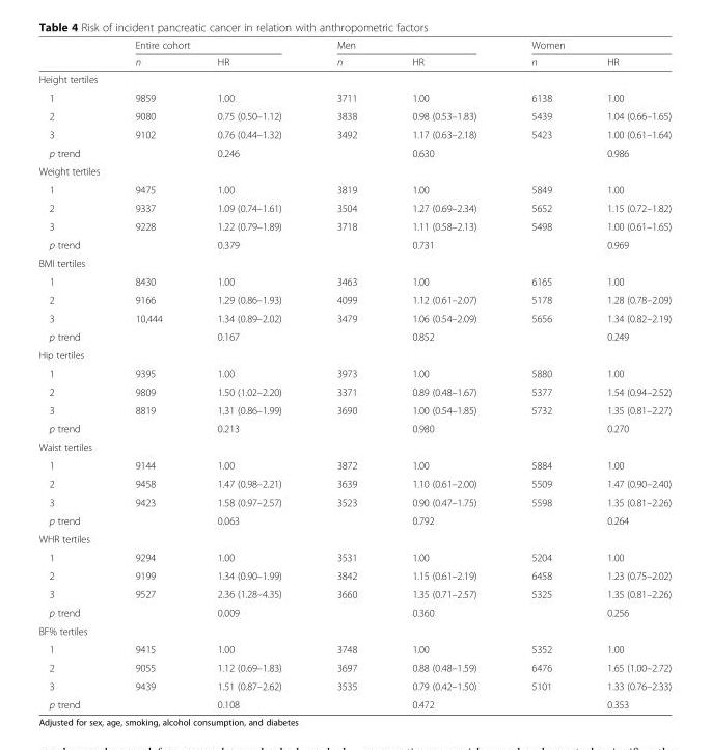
<table><thead><tr><td rowspan="2"></td><td colspan="2">Entire cohort</td><td colspan="2">Men</td><td colspan="2">Women</td></tr><tr><td>n</td><td>HR</td><td>n</td><td>HR</td><td>n</td><td>HR</td></tr></thead><tbody><tr><td colspan="7">Height tertiles</td></tr><tr><td>1</td><td>9859</td><td>1.00</td><td>3711</td><td>1.00</td><td>6138</td><td>1.00</td></tr><tr><td>2</td><td>9080</td><td>0.75 (0.50–1.12)</td><td>3838</td><td>0.98 (0.53–1.83)</td><td>5439</td><td>1.04 (0.66–1.65)</td></tr><tr><td>3</td><td>9102</td><td>0.76 (0.44–1.32)</td><td>3492</td><td>1.17 (0.63–2.18)</td><td>5423</td><td>1.00 (0.61–1.64)</td></tr><tr><td>p trend</td><td></td><td>0.246</td><td></td><td>0.630</td><td></td><td>0.986</td></tr><tr><td colspan="7">Weight tertiles</td></tr><tr><td>1</td><td>9475</td><td>1.00</td><td>3819</td><td>1.00</td><td>5849</td><td>1.00</td></tr><tr><td>2</td><td>9337</td><td>1.09 (0.74–1.61)</td><td>3504</td><td>1.27 (0.69–2.34)</td><td>5652</td><td>1.15 (0.72–1.82)</td></tr><tr><td>3</td><td>9228</td><td>1.22 (0.79–1.89)</td><td>3718</td><td>1.11 (0.58–2.13)</td><td>5498</td><td>1.00 (0.61–1.65)</td></tr><tr><td>p trend</td><td></td><td>0.379</td><td></td><td>0.731</td><td></td><td>0.969</td></tr><tr><td colspan="7">BMI tertiles</td></tr><tr><td>1</td><td>8430</td><td>1.00</td><td>3463</td><td>1.00</td><td>6165</td><td>1.00</td></tr><tr><td>2</td><td>9166</td><td>1.29 (0.86–1.93)</td><td>4099</td><td>1.12 (0.61–2.07)</td><td>5178</td><td>1.28 (0.78–2.09)</td></tr><tr><td>3</td><td>10,444</td><td>1.34 (0.89–2.02)</td><td>3479</td><td>1.06 (0.54–2.09)</td><td>5656</td><td>1.34 (0.82–2.19)</td></tr><tr><td>p trend</td><td></td><td>0.167</td><td></td><td>0.852</td><td></td><td>0.249</td></tr><tr><td colspan="7">Hip tertiles</td></tr><tr><td>1</td><td>9395</td><td>1.00</td><td>3973</td><td>1.00</td><td>5880</td><td>1.00</td></tr><tr><td>2</td><td>9809</td><td>1.50 (1.02–2.20)</td><td>3371</td><td>0.89 (0.48–1.67)</td><td>5377</td><td>1.54 (0.94–2.52)</td></tr><tr><td>3</td><td>8819</td><td>1.31 (0.86–1.99)</td><td>3690</td><td>1.00 (0.54–1.85)</td><td>5732</td><td>1.35 (0.81–2.27)</td></tr><tr><td>p trend</td><td></td><td>0.213</td><td></td><td>0.980</td><td></td><td>0.270</td></tr><tr><td colspan="7">Waist tertiles</td></tr><tr><td>1</td><td>9144</td><td>1.00</td><td>3872</td><td>1.00</td><td>5884</td><td>1.00</td></tr><tr><td>2</td><td>9458</td><td>1.47 (0.98–2.21)</td><td>3639</td><td>1.10 (0.61–2.00)</td><td>5509</td><td>1.47 (0.90–2.40)</td></tr><tr><td>3</td><td>9423</td><td>1.58 (0.97–2.57)</td><td>3523</td><td>0.90 (0.47–1.75)</td><td>5598</td><td>1.35 (0.81–2.26)</td></tr><tr><td>p trend</td><td></td><td>0.063</td><td></td><td>0.792</td><td></td><td>0.264</td></tr><tr><td colspan="7">WHR tertiles</td></tr><tr><td>1</td><td>9294</td><td>1.00</td><td>3531</td><td>1.00</td><td>5204</td><td>1.00</td></tr><tr><td>2</td><td>9199</td><td>1.34 (0.90–1.99)</td><td>3842</td><td>1.15 (0.61–2.19)</td><td>6458</td><td>1.23 (0.75–2.02)</td></tr><tr><td>3</td><td>9527</td><td>2.36 (1.28–4.35)</td><td>3660</td><td>1.35 (0.71–2.57)</td><td>5325</td><td>1.35 (0.81–2.26)</td></tr><tr><td>p trend</td><td></td><td>0.009</td><td></td><td>0.360</td><td></td><td>0.256</td></tr><tr><td colspan="7">BF% tertiles</td></tr><tr><td>1</td><td>9415</td><td>1.00</td><td>3748</td><td>1.00</td><td>5352</td><td>1.00</td></tr><tr><td>2</td><td>9055</td><td>1.12 (0.69–1.83)</td><td>3697</td><td>0.88 (0.48–1.59)</td><td>6476</td><td>1.65 (1.00–2.72)</td></tr><tr><td>3</td><td>9439</td><td>1.51 (0.87–2.62)</td><td>3535</td><td>0.79 (0.42–1.50)</td><td>5101</td><td>1.33 (0.76–2.33)</td></tr><tr><td>p trend</td><td></td><td>0.108</td><td></td><td>0.472</td><td></td><td>0.353</td></tr></tbody></table>